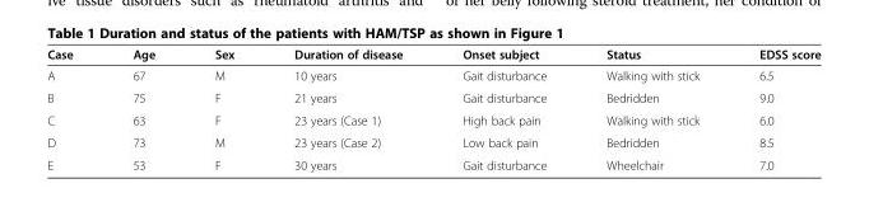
<table><thead><tr><td>Case</td><td>Age</td><td>Sex</td><td>Duration of disease</td><td>Onset subject</td><td>Status</td><td>EDSS score</td></tr></thead><tbody><tr><td>A</td><td>67</td><td>M</td><td>10 years</td><td>Gait disturbance</td><td>Walking with stick</td><td>6.5</td></tr><tr><td>B</td><td>75</td><td>F</td><td>21 years</td><td>Gait disturbance</td><td>Bedridden</td><td>9.0</td></tr><tr><td>C</td><td>63</td><td>F</td><td>23 years (Case 1)</td><td>High back pain</td><td>Walking with stick</td><td>6.0</td></tr><tr><td>D</td><td>73</td><td>M</td><td>23 years (Case 2)</td><td>Low back pain</td><td>Bedridden</td><td>8.5</td></tr><tr><td>E</td><td>53</td><td>F</td><td>30 years</td><td>Gait disturbance</td><td>Wheelchair</td><td>7.0</td></tr></tbody></table>